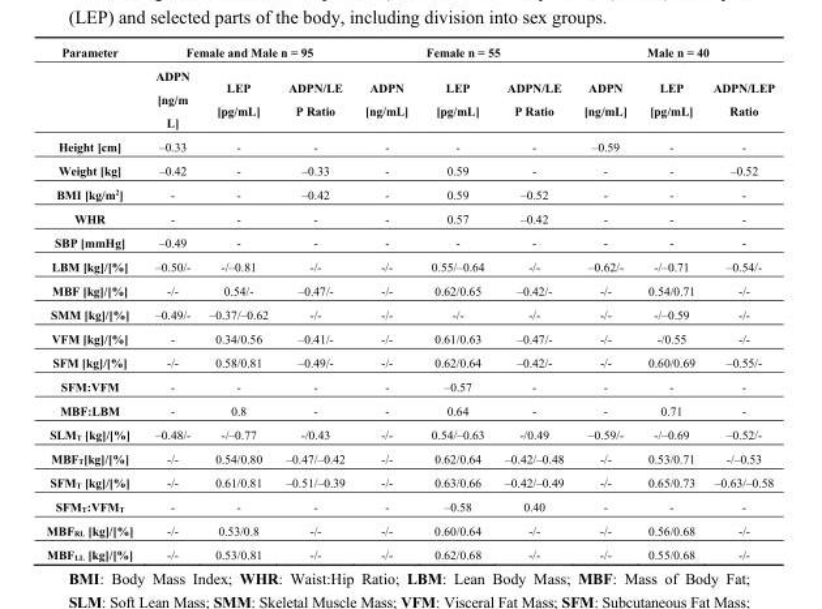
<table><thead><tr><td rowspan="2">Parameter</td><td colspan="3">Female and Male n = 95</td><td colspan="3">Female n = 55</td><td colspan="3">Male n = 40</td></tr><tr><td>ADPN [ng/m L]</td><td>LEP [pg/mL]</td><td>ADPN/LE P Ratio</td><td>ADPN [ng/mL]</td><td>LEP [pg/mL]</td><td>ADPN/LE P Ratio</td><td>ADPN [ng/mL]</td><td>LEP [pg/mL]</td><td>ADPN/LEP Ratio</td></tr></thead><tbody><tr><td>Height [cm]</td><td>–0.33</td><td>-</td><td>-</td><td>-</td><td>-</td><td>-</td><td>–0.59</td><td>-</td><td>-</td></tr><tr><td>Weight [kg]</td><td>–0.42</td><td>-</td><td>–0.33</td><td>-</td><td>0.59</td><td>-</td><td>-</td><td>-</td><td>–0.52</td></tr><tr><td>BMI [kg/m<sup>2</sup>]</td><td>-</td><td>-</td><td>–0.42</td><td>-</td><td>0.59</td><td>–0.52</td><td>-</td><td>-</td><td>-</td></tr><tr><td>WHR</td><td>-</td><td>-</td><td>-</td><td>-</td><td>0.57</td><td>–0.42</td><td>-</td><td>-</td><td>-</td></tr><tr><td>SBP [mmHg]</td><td>–0.49</td><td>-</td><td>-</td><td>-</td><td>-</td><td>-</td><td>-</td><td>-</td><td>-</td></tr><tr><td>LBM [kg]/[%]</td><td>–0.50/-</td><td>-/–0.81</td><td>-/-</td><td>-/-</td><td>0.55/–0.64</td><td>-/-</td><td>–0.62/-</td><td>-/–0.71</td><td>–0.54/-</td></tr><tr><td>MBF [kg]/[%]</td><td>-/-</td><td>0.54/-</td><td>–0.47/-</td><td>-/-</td><td>0.62/0.65</td><td>–0.42/-</td><td>-/-</td><td>0.54/0.71</td><td>-/-</td></tr><tr><td>SMM [kg]/[%]</td><td>–0.49/-</td><td>–0.37/–0.62</td><td>-/-</td><td>-/-</td><td>-/-</td><td>-/-</td><td>-/-</td><td>-/–0.59</td><td>-/-</td></tr><tr><td>VFM [kg]/[%]</td><td>-</td><td>0.34/0.56</td><td>–0.41/-</td><td>-/-</td><td>0.61/0.63</td><td>–0.47/-</td><td>-/-</td><td>-/0.55</td><td>-/-</td></tr><tr><td>SFM [kg]/[%]</td><td>-/-</td><td>0.58/0.81</td><td>–0.49/-</td><td>-/-</td><td>0.62/0.64</td><td>–0.42/-</td><td>-/-</td><td>0.60/0.69</td><td>–0.55/-</td></tr><tr><td>SFM:VFM</td><td>-</td><td>-</td><td>-</td><td>-</td><td>–0.57</td><td>-</td><td>-</td><td>-</td><td>-</td></tr><tr><td>MBF:LBM</td><td>-</td><td>0.8</td><td>-</td><td>-</td><td>0.64</td><td>-</td><td>-</td><td>0.71</td><td>-</td></tr><tr><td>SLM<sub>T</sub> [kg]/[%]</td><td>–0.48/-</td><td>-/–0.77</td><td>-/0.43</td><td>-/-</td><td>0.54/–0.63</td><td>-/0.49</td><td>–0.59/-</td><td>-/–0.69</td><td>–0.52/-</td></tr><tr><td>MBF<sub>T</sub>[kg]/[%]</td><td>-/-</td><td>0.54/0.80</td><td>–0.47/–0.42</td><td>-/-</td><td>0.62/0.64</td><td>–0.42/–0.48</td><td>-/-</td><td>0.53/0.71</td><td>-/–0.53</td></tr><tr><td>SFM<sub>T</sub> [kg]/[%]</td><td>-/-</td><td>0.61/0.81</td><td>–0.51/–0.39</td><td>-/-</td><td>0.63/0.66</td><td>–0.42/–0.49</td><td>-/-</td><td>0.65/0.73</td><td>–0.63/–0.58</td></tr><tr><td>SFM<sub>T</sub>:VFM<sub>T</sub></td><td>-</td><td>-</td><td>-</td><td>-</td><td>–0.58</td><td>0.40</td><td>-</td><td>-</td><td>-</td></tr><tr><td>MBF<sub>RL</sub> [kg]/[%]</td><td>-/-</td><td>0.53/0.8</td><td>-/-</td><td>-/-</td><td>0.60/0.64</td><td>-/-</td><td>-/-</td><td>0.56/0.68</td><td>-/-</td></tr><tr><td>MBF<sub>LL</sub> [kg]/[%]</td><td>-/-</td><td>0.53/0.81</td><td>-/-</td><td>-/-</td><td>0.62/0.68</td><td>-/-</td><td>-/-</td><td>0.55/0.68</td><td>-/-</td></tr></tbody></table>